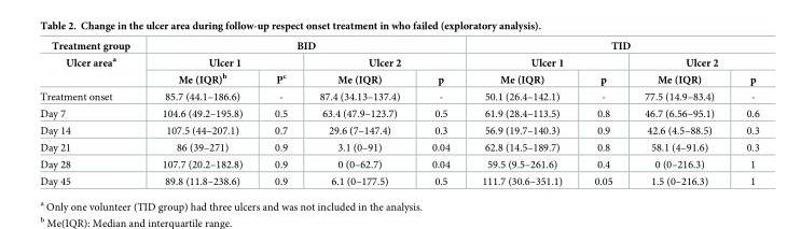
<table><thead><tr><td rowspan="3">Treatment group Ulcer area<sup>a</sup></td><td colspan="4">BID</td><td colspan="4">TID</td></tr><tr><td colspan="2">Ulcer 1</td><td colspan="2">Ulcer 2</td><td colspan="2">Ulcer 1</td><td colspan="2">Ulcer 2</td></tr><tr><td>Me (IQR)<sup>b</sup></td><td>P<sup>c</sup></td><td>Me (IQR)</td><td>p</td><td>Me (IQR)</td><td>p</td><td>Me (IQR)</td><td>p</td></tr></thead><tbody><tr><td>Treatment onset</td><td>85.7 (44.1–186.6)</td><td>-</td><td>87.4 (34.13–137.4)</td><td>-</td><td>50.1 (26.4–142.1)</td><td>-</td><td>77.5 (14.9–83.4)</td><td>-</td></tr><tr><td>Day 7</td><td>104.6 (49.2–195.8)</td><td>0.5</td><td>63.4 (47.9–123.7)</td><td>0.5</td><td>61.9 (28.4–113.5)</td><td>0.8</td><td>46.7 (6.56–95.1)</td><td>0.6</td></tr><tr><td>Day 14</td><td>107.5 (44–207.1)</td><td>0.7</td><td>29.6 (7–147.4)</td><td>0.3</td><td>56.9 (19.7–140.3)</td><td>0.9</td><td>42.6 (4.5–88.5)</td><td>0.3</td></tr><tr><td>Day 21</td><td>86 (39–271)</td><td>0.9</td><td>3.1 (0–91)</td><td>0.04</td><td>62.8 (14.5–189.7)</td><td>0.8</td><td>58.1 (4–91.6)</td><td>0.3</td></tr><tr><td>Day 28</td><td>107.7 (20.2–182.8)</td><td>0.9</td><td>0 (0–62.7)</td><td>0.04</td><td>59.5 (9.5–261.6)</td><td>0.4</td><td>0 (0–216.3)</td><td>1</td></tr><tr><td>Day 45</td><td>89.8 (11.8–238.6)</td><td>0.9</td><td>6.1 (0–177.5)</td><td>0.5</td><td>111.7 (30.6–351.1)</td><td>0.05</td><td>1.5 (0–216.3)</td><td>1</td></tr></tbody></table>